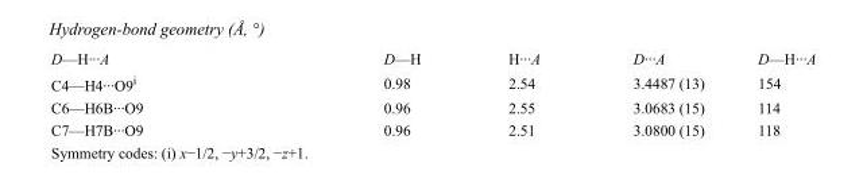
<table><tbody><tr><td>D—H···A</td><td>D—H</td><td>H···A</td><td>D···A</td><td>D—H···A</td></tr><tr><td>C4—H4···O9<sup>i</sup></td><td>0.98</td><td>2.54</td><td>3.4487 (13)</td><td>154</td></tr><tr><td>C6—H6B···O9</td><td>0.96</td><td>2.55</td><td>3.0683 (15)</td><td>114</td></tr><tr><td>C7—H7B···O9</td><td>0.96</td><td>2.51</td><td>3.0800 (15)</td><td>118</td></tr></tbody></table>